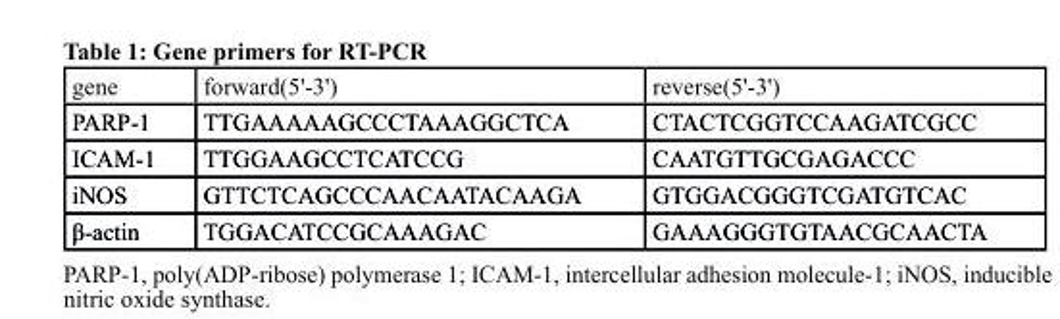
<table><thead><tr><td>gene</td><td>forward(5&#x27;-3&#x27;)</td><td>reverse(5&#x27;-3&#x27;)</td></tr></thead><tbody><tr><td>PARP-1</td><td>TTGAAAAAGCCCTAAAGGCTCA</td><td>CTACTCGGTCCAAGATCGCC</td></tr><tr><td>ICAM-1</td><td>TTGGAAGCCTCATCCG</td><td>CAATGTTGCGAGACCC</td></tr><tr><td>iNOS</td><td>GTTCTCAGCCCAACAATACAAGA</td><td>GTGGACGGGTCGATGTCAC</td></tr><tr><td>β-actin</td><td>TGGACATCCGCAAAGAC</td><td>GAAAGGGTGTAACGCAACTA</td></tr></tbody></table>